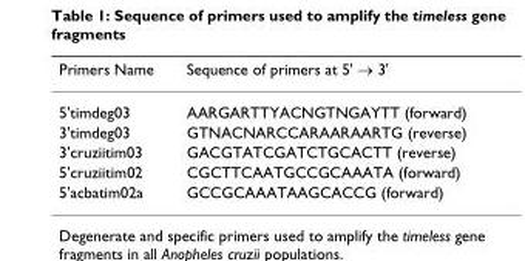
<table><thead><tr><td>Primers Name</td><td>Sequence of primers at 5&#x27; → 3&#x27;</td></tr></thead><tbody><tr><td>5&#x27;timdeg03</td><td>AARGARTTYACNGTNGAYTT (forward)</td></tr><tr><td>3&#x27;timdeg03</td><td>GTNACNARCCARAARAARTG (reverse)</td></tr><tr><td>3&#x27;cruziitim03</td><td>GACGTATCGATCTGCACTT (reverse)</td></tr><tr><td>5&#x27;cruziitim02</td><td>CGCTTCAATGCCGCAAATA (forward)</td></tr><tr><td>5&#x27;acbatim02a</td><td>GCCGCAAATAAGCACCG (forward)</td></tr></tbody></table>